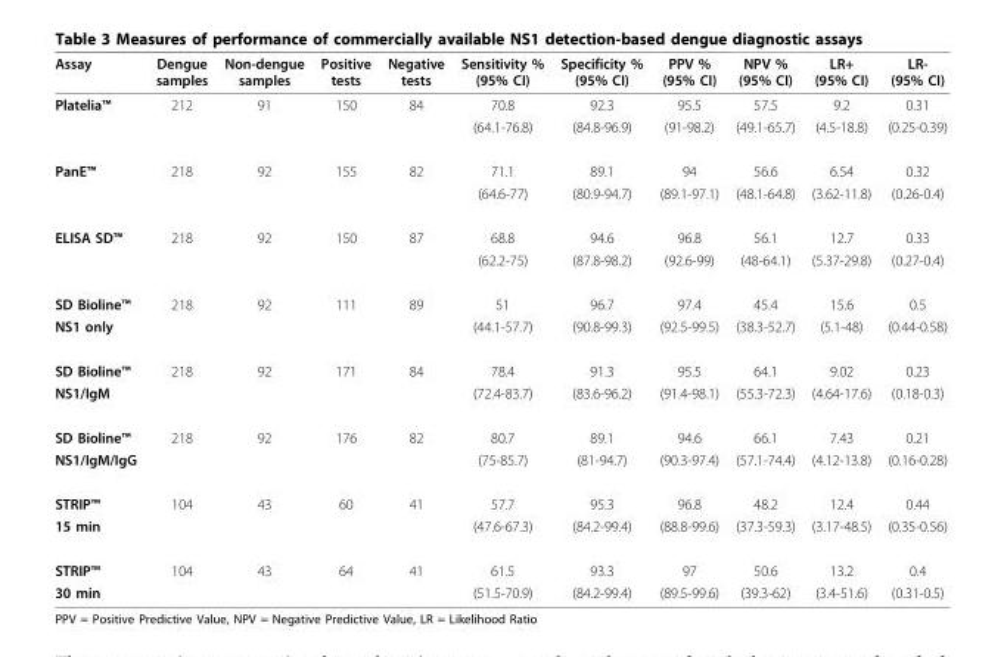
<table><thead><tr><td>Assay</td><td>Dengue samples</td><td>Non-dengue samples</td><td>Positive tests</td><td>Negative tests</td><td>Sensitivity % (95% CI)</td><td>Specificity % (95% CI)</td><td>PPV % (95% CI)</td><td>NPV % (95% CI)</td><td>LR+ (95% CI)</td><td>LR- (95% CI)</td></tr></thead><tbody><tr><td rowspan="2">Platelia™</td><td>212</td><td>91</td><td>150</td><td>84</td><td>70.8</td><td>92.3</td><td>95.5</td><td>57.5</td><td>9.2</td><td>0.31</td></tr><tr><td></td><td></td><td></td><td></td><td>(64.1-76.8)</td><td>(84.8-96.9)</td><td>(91-98.2)</td><td>(49.1-65.7)</td><td>(4.5-18.8)</td><td>(0.25-0.39)</td></tr><tr><td rowspan="2">PanE™</td><td>218</td><td>92</td><td>155</td><td>82</td><td>71.1</td><td>89.1</td><td>94</td><td>56.6</td><td>6.54</td><td>0.32</td></tr><tr><td></td><td></td><td></td><td></td><td>(64.6-77)</td><td>(80.9-94.7)</td><td>(89.1-97.1)</td><td>(48.1-64.8)</td><td>(3.62-11.8)</td><td>(0.26-0.4)</td></tr><tr><td rowspan="2">ELISA SD™</td><td>218</td><td>92</td><td>150</td><td>87</td><td>68.8</td><td>94.6</td><td>96.8</td><td>56.1</td><td>12.7</td><td>0.33</td></tr><tr><td></td><td></td><td></td><td></td><td>(62.2-75)</td><td>(87.8-98.2)</td><td>(92.6-99)</td><td>(48-64.1)</td><td>(5.37-29.8)</td><td>(0.27-0.4)</td></tr><tr><td>SD Bioline™</td><td>218</td><td>92</td><td>111</td><td>89</td><td>51</td><td>96.7</td><td>97.4</td><td>45.4</td><td>15.6</td><td>0.5</td></tr><tr><td>NS1 only</td><td></td><td></td><td></td><td></td><td>(44.1-57.7)</td><td>(90.8-99.3)</td><td>(92.5-99.5)</td><td>(38.3-52.7)</td><td>(5.1-48)</td><td>(0.44-0.58)</td></tr><tr><td>SD Bioline™</td><td>218</td><td>92</td><td>171</td><td>84</td><td>78.4</td><td>91.3</td><td>95.5</td><td>64.1</td><td>9.02</td><td>0.23</td></tr><tr><td>NS1/IgM</td><td></td><td></td><td></td><td></td><td>(72.4-83.7)</td><td>(83.6-96.2)</td><td>(91.4-98.1)</td><td>(55.3-72.3)</td><td>(4.64-17.6)</td><td>(0.18-0.3)</td></tr><tr><td>SD Bioline™</td><td>218</td><td>92</td><td>176</td><td>82</td><td>80.7</td><td>89.1</td><td>94.6</td><td>66.1</td><td>7.43</td><td>0.21</td></tr><tr><td>NS1/IgM/IgG</td><td></td><td></td><td></td><td></td><td>(75-85.7)</td><td>(81-94.7)</td><td>(90.3-97.4)</td><td>(57.1-74.4)</td><td>(4.12-13.8)</td><td>(0.16-0.28)</td></tr><tr><td>STRIP™</td><td>104</td><td>43</td><td>60</td><td>41</td><td>57.7</td><td>95.3</td><td>96.8</td><td>48.2</td><td>12.4</td><td>0.44</td></tr><tr><td>15 min</td><td></td><td></td><td></td><td></td><td>(47.6-67.3)</td><td>(84.2-99.4)</td><td>(88.8-99.6)</td><td>(37.3-59.3)</td><td>(3.17-48.5)</td><td>(0.35-0.56)</td></tr><tr><td>STRIP™</td><td>104</td><td>43</td><td>64</td><td>41</td><td>61.5</td><td>93.3</td><td>97</td><td>50.6</td><td>13.2</td><td>0.4</td></tr><tr><td>30 min</td><td></td><td></td><td></td><td></td><td>(51.5-70.9)</td><td>(84.2-99.4)</td><td>(89.5-99.6)</td><td>(39.3-62)</td><td>(3.4-51.6)</td><td>(0.31-0.5)</td></tr></tbody></table>